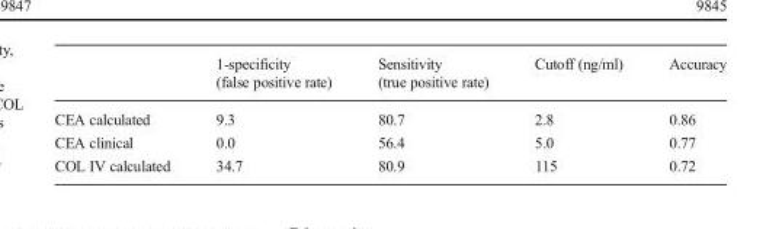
<table><thead><tr><td></td><td>1-specificity (false positive rate)</td><td>Sensitivity (true positive rate)</td><td>Cutoff (ng/ml)</td><td>Accuracy</td></tr></thead><tbody><tr><td>CEA calculated</td><td>9.3</td><td>80.7</td><td>2.8</td><td>0.86</td></tr><tr><td>CEA clinical</td><td>0.0</td><td>56.4</td><td>5.0</td><td>0.77</td></tr><tr><td>COL IV calculated</td><td>34.7</td><td>80.9</td><td>115</td><td>0.72</td></tr></tbody></table>